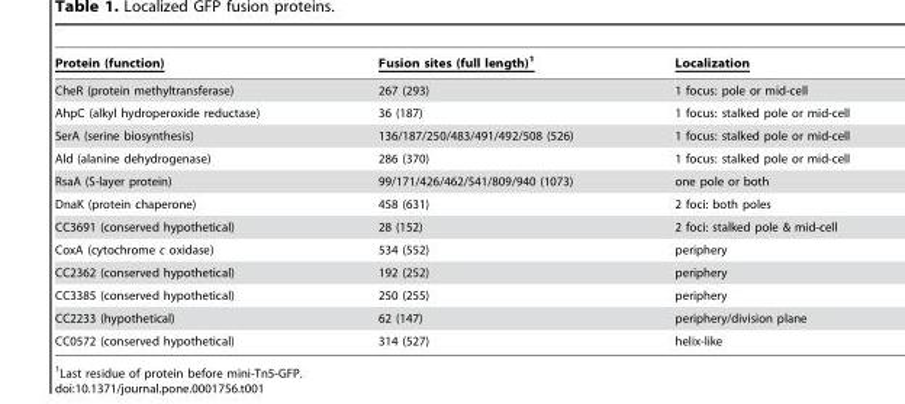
<table><thead><tr><td>Protein (function)</td><td>Fusion sites (full length)1</td><td>Localization</td></tr></thead><tbody><tr><td>CheR (protein methyltransferase)</td><td>267 (293)</td><td>1 focus: pole or mid-cell</td></tr><tr><td>AhpC (alkyl hydroperoxide reductase)</td><td>36 (187)</td><td>1 focus: stalked pole or mid-cell</td></tr><tr><td>SerA (serine biosynthesis)</td><td>136/187/250/483/491/492/508 (526)</td><td>1 focus: stalked pole or mid-cell</td></tr><tr><td>Ald (alanine dehydrogenase)</td><td>286 (370)</td><td>1 focus: stalked pole or mid-cell</td></tr><tr><td>RsaA (S-layer protein)</td><td>99/171/426/462/541/809/940 (1073)</td><td>one pole or both</td></tr><tr><td>DnaK (protein chaperone)</td><td>458 (631)</td><td>2 foci: both poles</td></tr><tr><td>CC3691 (conserved hypothetical)</td><td>28 (152)</td><td>2 foci: stalked pole &amp; mid-cell</td></tr><tr><td>CoxA (cytochrome c oxidase)</td><td>534 (552)</td><td>periphery</td></tr><tr><td>CC2362 (conserved hypothetical)</td><td>192 (252)</td><td>periphery</td></tr><tr><td>CC3385 (conserved hypothetical)</td><td>250 (255)</td><td>periphery</td></tr><tr><td>CC2233 (hypothetical)</td><td>62 (147)</td><td>periphery/division plane</td></tr><tr><td>CC0572 (conserved hypothetical)</td><td>314 (527)</td><td>helix-like</td></tr></tbody></table>